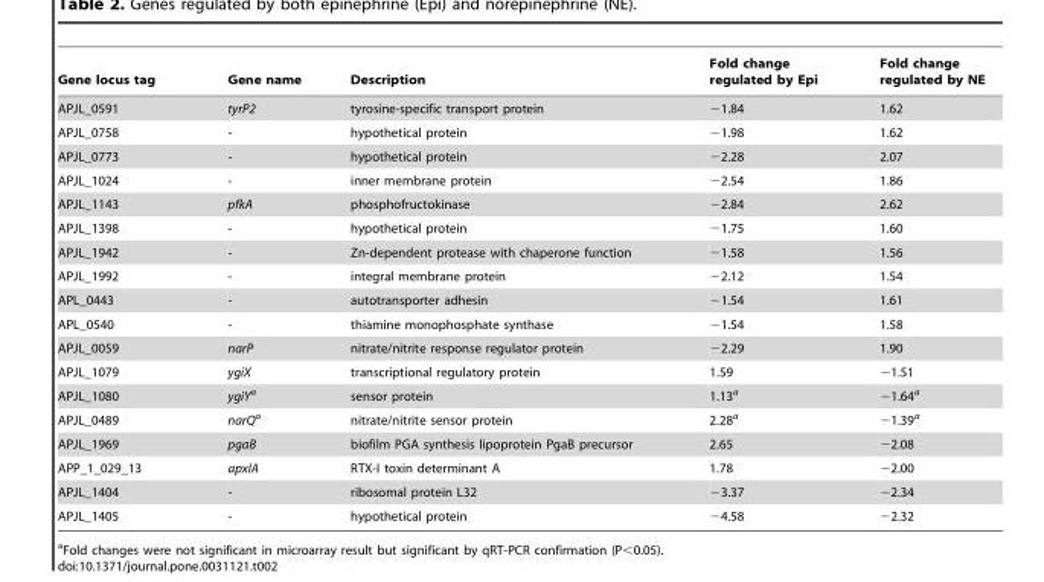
<table><thead><tr><td>Gene locus tag</td><td>Gene name</td><td>Description</td><td>Fold change regulated by Epi</td><td>Fold change regulated by NE</td></tr></thead><tbody><tr><td>APJL_0591</td><td>tyrP2</td><td>tyrosine-specific transport protein</td><td>−1.84</td><td>1.62</td></tr><tr><td>APJL_0758</td><td>-</td><td>hypothetical protein</td><td>−1.98</td><td>1.62</td></tr><tr><td>APJL_0773</td><td>-</td><td>hypothetical protein</td><td>−2.28</td><td>2.07</td></tr><tr><td>APJL_1024</td><td>-</td><td>inner membrane protein</td><td>−2.54</td><td>1.86</td></tr><tr><td>APJL_1143</td><td>pfkA</td><td>phosphofructokinase</td><td>−2.84</td><td>2.62</td></tr><tr><td>APJL_1398</td><td>-</td><td>hypothetical protein</td><td>−1.75</td><td>1.60</td></tr><tr><td>APJL_1942</td><td>-</td><td>Zn-dependent protease with chaperone function</td><td>−1.58</td><td>1.56</td></tr><tr><td>APJL_1992</td><td>-</td><td>integral membrane protein</td><td>−2.12</td><td>1.54</td></tr><tr><td>APL_0443</td><td>-</td><td>autotransporter adhesin</td><td>−1.54</td><td>1.61</td></tr><tr><td>APL_0540</td><td>-</td><td>thiamine monophosphate synthase</td><td>−1.54</td><td>1.58</td></tr><tr><td>APJL_0059</td><td>narP</td><td>nitrate/nitrite response regulator protein</td><td>−2.29</td><td>1.90</td></tr><tr><td>APJL_1079</td><td>ygiX</td><td>transcriptional regulatory protein</td><td>1.59</td><td>−1.51</td></tr><tr><td>APJL_1080</td><td>ygiYa</td><td>sensor protein</td><td>1.13<sup>a</sup></td><td>−1.64<sup>a</sup></td></tr><tr><td>APJL_0489</td><td>narQa</td><td>nitrate/nitrite sensor protein</td><td>2.28<sup>a</sup></td><td>−1.39<sup>a</sup></td></tr><tr><td>APJL_1969</td><td>pgaB</td><td>biofilm PGA synthesis lipoprotein PgaB precursor</td><td>2.65</td><td>−2.08</td></tr><tr><td>APP_1_029_13</td><td>apxIA</td><td>RTX-I toxin determinant A</td><td>1.78</td><td>−2.00</td></tr><tr><td>APJL_1404</td><td>-</td><td>ribosomal protein L32</td><td>−3.37</td><td>−2.34</td></tr><tr><td>APJL_1405</td><td>-</td><td>hypothetical protein</td><td>−4.58</td><td>−2.32</td></tr></tbody></table>